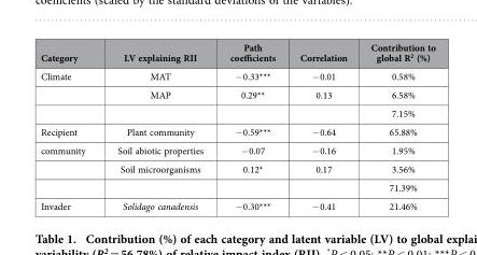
<table><thead><tr><td>Category</td><td>LV explaining RII</td><td>Path coefficients</td><td>Correlation</td><td>Contribution to global R<sup>2</sup> (%)</td></tr></thead><tbody><tr><td rowspan="3">Climate</td><td>MAT</td><td>− 0.33***</td><td>− 0.01</td><td>0.58%</td></tr><tr><td>MAP</td><td>0.29**</td><td>0.13</td><td>6.58%</td></tr><tr><td></td><td></td><td></td><td>7.15%</td></tr><tr><td>Recipient</td><td>Plant community</td><td>− 0.59***</td><td>− 0.64</td><td>65.88%</td></tr><tr><td rowspan="3">community</td><td>Soil abiotic properties</td><td>− 0.07</td><td>− 0.16</td><td>1.95%</td></tr><tr><td>Soil microorganisms</td><td>0.12*</td><td>0.17</td><td>3.56%</td></tr><tr><td></td><td></td><td></td><td>71.39%</td></tr><tr><td>Invader</td><td>Solidago canadensis</td><td>− 0.30***</td><td>− 0.41</td><td>21.46%</td></tr></tbody></table>